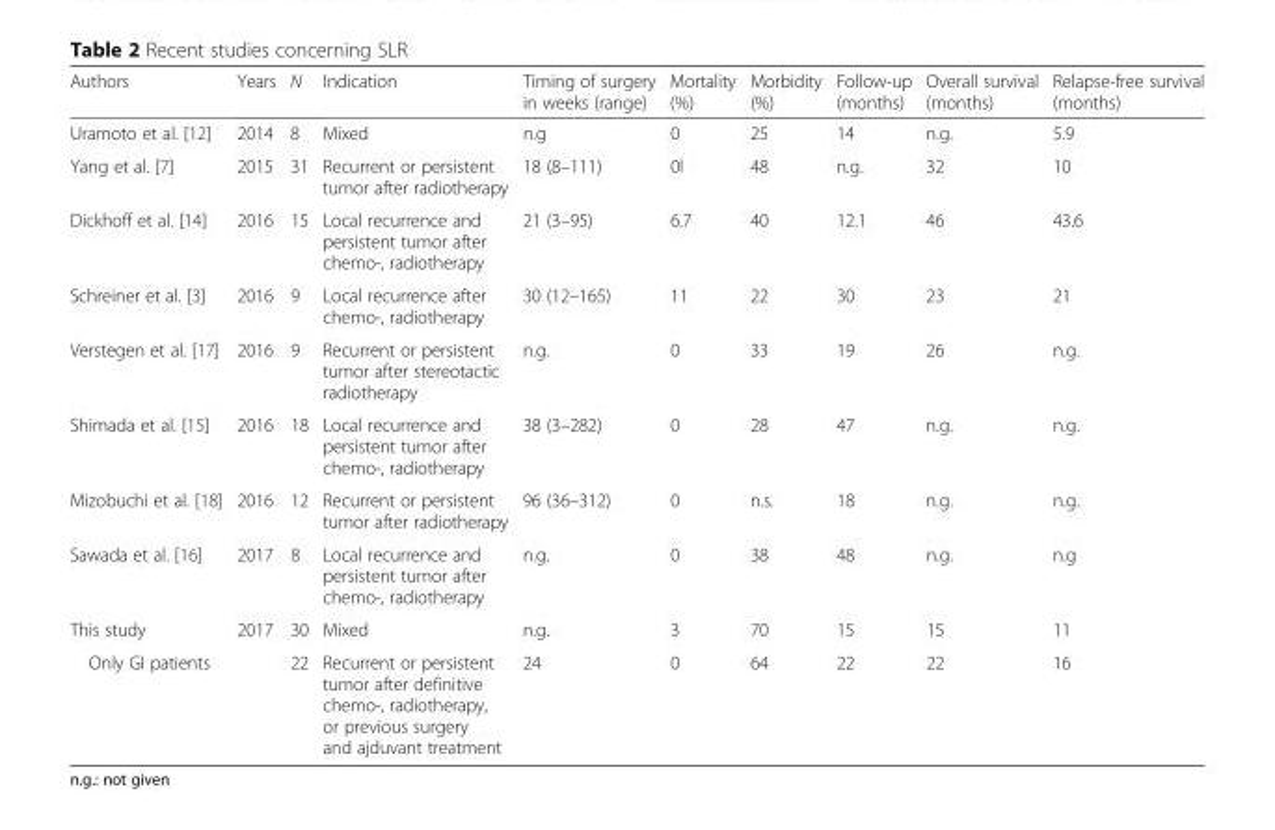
<table><thead><tr><td>Authors</td><td>Years</td><td>N</td><td>Indication</td><td>Timing of surgery in weeks (range)</td><td>Mortality (%)</td><td>Morbidity (%)</td><td>Follow-up (months)</td><td>Overall survival (months)</td><td>Relapse-free survival (months)</td></tr></thead><tbody><tr><td>Uramoto et al. [12]</td><td>2014</td><td>8</td><td>Mixed</td><td>n.g</td><td>0</td><td>25</td><td>14</td><td>n.g.</td><td>5.9</td></tr><tr><td>Yang et al. [7]</td><td>2015</td><td>31</td><td>Recurrent or persistent tumor after radiotherapy</td><td>18 (8–111)</td><td>0l</td><td>48</td><td>n.g.</td><td>32</td><td>10</td></tr><tr><td>Dickhoff et al. [14]</td><td>2016</td><td>15</td><td>Local recurrence and persistent tumor after chemo-, radiotherapy</td><td>21 (3–95)</td><td>6.7</td><td>40</td><td>12.1</td><td>46</td><td>43.6</td></tr><tr><td>Schreiner et al. [3]</td><td>2016</td><td>9</td><td>Local recurrence after chemo-, radiotherapy</td><td>30 (12–165)</td><td>11</td><td>22</td><td>30</td><td>23</td><td>21</td></tr><tr><td>Verstegen et al. [17]</td><td>2016</td><td>9</td><td>Recurrent or persistent tumor after stereotactic radiotherapy</td><td>n.g.</td><td>0</td><td>33</td><td>19</td><td>26</td><td>n.g.</td></tr><tr><td>Shimada et al. [15]</td><td>2016</td><td>18</td><td>Local recurrence and persistent tumor after chemo-, radiotherapy</td><td>38 (3–282)</td><td>0</td><td>28</td><td>47</td><td>n.g.</td><td>n.g.</td></tr><tr><td>Mizobuchi et al. [18]</td><td>2016</td><td>12</td><td>Recurrent or persistent tumor after radiotherapy</td><td>96 (36–312)</td><td>0</td><td>n.s.</td><td>18</td><td>n.g.</td><td>n.g.</td></tr><tr><td>Sawada et al. [16]</td><td>2017</td><td>8</td><td>Local recurrence and persistent tumor after chemo-, radiotherapy</td><td>n.g.</td><td>0</td><td>38</td><td>48</td><td>n.g.</td><td>n.g</td></tr><tr><td>This study</td><td>2017</td><td>30</td><td>Mixed</td><td>n.g.</td><td>3</td><td>70</td><td>15</td><td>15</td><td>11</td></tr><tr><td>Only GI patients</td><td></td><td>22</td><td>Recurrent or persistent tumor after definitive chemo-, radiotherapy, or previous surgery and ajduvant treatment</td><td>24</td><td>0</td><td>64</td><td>22</td><td>22</td><td>16</td></tr></tbody></table>